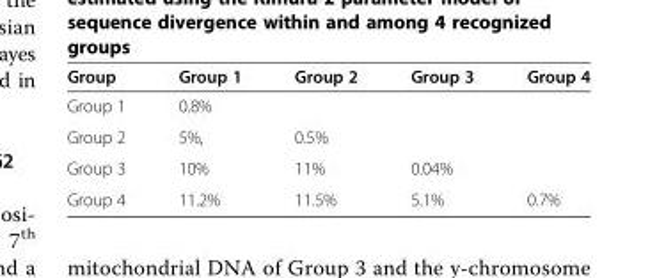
<table><thead><tr><td>Group</td><td>Group 1</td><td>Group 2</td><td>Group 3</td><td>Group 4</td></tr></thead><tbody><tr><td>Group 1</td><td>0.8%</td><td></td><td></td><td></td></tr><tr><td>Group 2</td><td>5%,</td><td>0.5%</td><td></td><td></td></tr><tr><td>Group 3</td><td>10%</td><td>11%</td><td>0.04%</td><td></td></tr><tr><td>Group 4</td><td>11.2%</td><td>11.5%</td><td>5.1%</td><td>0.7%</td></tr></tbody></table>